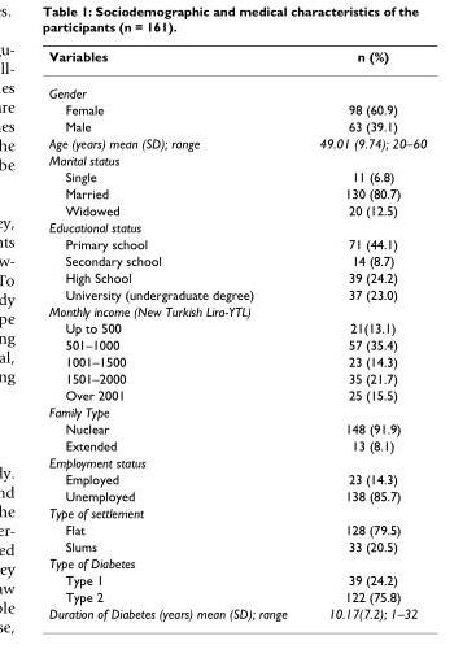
<table><thead><tr><td>Variables</td><td>n (%)</td></tr></thead><tbody><tr><td colspan="2">Gender</td></tr><tr><td>Female</td><td>98 (60.9)</td></tr><tr><td>Male</td><td>63 (39.1)</td></tr><tr><td>Age (years) mean (SD); range</td><td>49.01 (9.74); 20–60</td></tr><tr><td colspan="2">Marital status</td></tr><tr><td>Single</td><td>11 (6.8)</td></tr><tr><td>Married</td><td>130 (80.7)</td></tr><tr><td>Widowed</td><td>20 (12.5)</td></tr><tr><td colspan="2">Educational status</td></tr><tr><td>Primary school</td><td>71 (44.1)</td></tr><tr><td>Secondary school</td><td>14 (8.7)</td></tr><tr><td>High School</td><td>39 (24.2)</td></tr><tr><td>University (undergraduate degree)</td><td>37 (23.0)</td></tr><tr><td colspan="2">Monthly income (New Turkish Lira-YTL)</td></tr><tr><td>Up to 500</td><td>21(13.1)</td></tr><tr><td>501–1000</td><td>57 (35.4)</td></tr><tr><td>1001–1500</td><td>23 (14.3)</td></tr><tr><td>1501–2000</td><td>35 (21.7)</td></tr><tr><td>Over 2001</td><td>25 (15.5)</td></tr><tr><td colspan="2">Family Type</td></tr><tr><td>Nuclear</td><td>148 (91.9)</td></tr><tr><td>Extended</td><td>13 (8.1)</td></tr><tr><td colspan="2">Employment status</td></tr><tr><td>Employed</td><td>23 (14.3)</td></tr><tr><td>Unemployed</td><td>138 (85.7)</td></tr><tr><td colspan="2">Type of settlement</td></tr><tr><td>Flat</td><td>128 (79.5)</td></tr><tr><td>Slums</td><td>33 (20.5)</td></tr><tr><td colspan="2">Type of Diabetes</td></tr><tr><td>Type 1</td><td>39 (24.2)</td></tr><tr><td>Type 2</td><td>122 (75.8)</td></tr><tr><td>Duration of Diabetes (years) mean (SD); range</td><td>10.17(7.2); 1–32</td></tr></tbody></table>